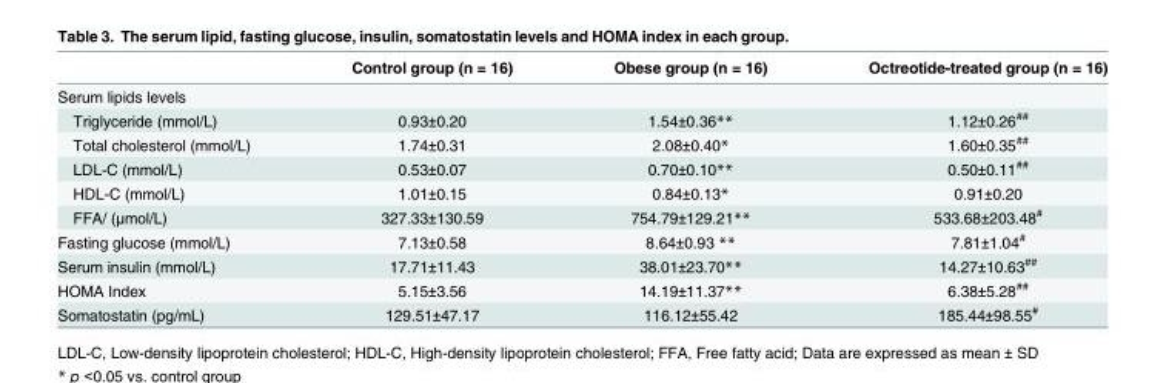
<table><thead><tr><td></td><td>Control group (n = 16)</td><td>Obese group (n = 16)</td><td>Octreotide-treated group (n = 16)</td></tr></thead><tbody><tr><td colspan="4">Serum lipids levels</td></tr><tr><td>Triglyceride (mmol/L)</td><td>0.93±0.20</td><td>1.54±0.36**</td><td>1.12±0.26<sup>##</sup></td></tr><tr><td>Total cholesterol (mmol/L)</td><td>1.74±0.31</td><td>2.08±0.40*</td><td>1.60±0.35<sup>##</sup></td></tr><tr><td>LDL-C (mmol/L)</td><td>0.53±0.07</td><td>0.70±0.10**</td><td>0.50±0.11<sup>##</sup></td></tr><tr><td>HDL-C (mmol/L)</td><td>1.01±0.15</td><td>0.84±0.13*</td><td>0.91±0.20</td></tr><tr><td>FFA/ (μmol/L)</td><td>327.33±130.59</td><td>754.79±129.21**</td><td>533.68±203.48<sup>#</sup></td></tr><tr><td>Fasting glucose (mmol/L)</td><td>7.13±0.58</td><td>8.64±0.93 **</td><td>7.81±1.04<sup>#</sup></td></tr><tr><td>Serum insulin (mmol/L)</td><td>17.71±11.43</td><td>38.01±23.70**</td><td>14.27±10.63<sup>##</sup></td></tr><tr><td>HOMA Index</td><td>5.15±3.56</td><td>14.19±11.37**</td><td>6.38±5.28<sup>##</sup></td></tr><tr><td>Somatostatin (pg/mL)</td><td>129.51±47.17</td><td>116.12±55.42</td><td>185.44±98.55<sup>#</sup></td></tr></tbody></table>